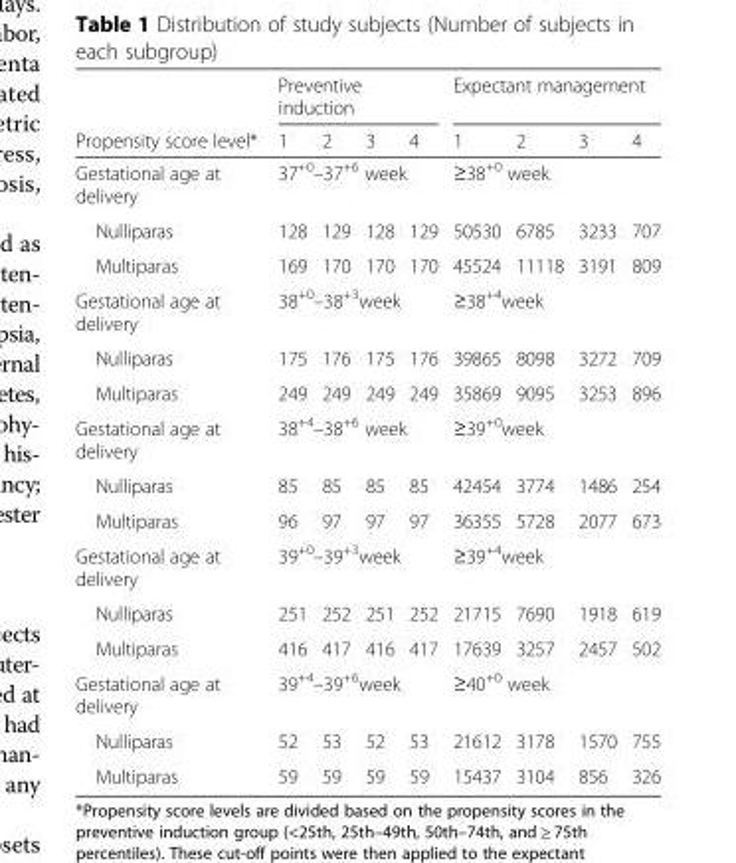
<table><thead><tr><td rowspan="2">Propensity score level*</td><td colspan="4">Preventive induction</td><td colspan="4">Expectant management</td></tr><tr><td>1</td><td>2</td><td>3</td><td>4</td><td>1</td><td>2</td><td>3</td><td>4</td></tr></thead><tbody><tr><td>Gestational age at delivery</td><td colspan="4">37<sup>+0</sup>–37<sup>+6</sup> week</td><td colspan="4">≥38<sup>+0</sup> week</td></tr><tr><td>Nulliparas</td><td>128</td><td>129</td><td>128</td><td>129</td><td>50530</td><td>6785</td><td>3233</td><td>707</td></tr><tr><td>Multiparas</td><td>169</td><td>170</td><td>170</td><td>170</td><td>45524</td><td>11118</td><td>3191</td><td>809</td></tr><tr><td>Gestational age at delivery</td><td colspan="4">38<sup>+0</sup>–38<sup>+3</sup>week</td><td colspan="4">≥38<sup>+4</sup>week</td></tr><tr><td>Nulliparas</td><td>175</td><td>176</td><td>175</td><td>176</td><td>39865</td><td>8098</td><td>3272</td><td>709</td></tr><tr><td>Multiparas</td><td>249</td><td>249</td><td>249</td><td>249</td><td>35869</td><td>9095</td><td>3253</td><td>896</td></tr><tr><td>Gestational age at delivery</td><td colspan="4">38<sup>+4</sup>–38<sup>+6</sup> week</td><td colspan="4">≥39<sup>+0</sup>week</td></tr><tr><td>Nulliparas</td><td>85</td><td>85</td><td>85</td><td>85</td><td>42454</td><td>3774</td><td>1486</td><td>254</td></tr><tr><td>Multiparas</td><td>96</td><td>97</td><td>97</td><td>97</td><td>36355</td><td>5728</td><td>2077</td><td>673</td></tr><tr><td>Gestational age at delivery</td><td colspan="4">39<sup>+0</sup>–39<sup>+3</sup>week</td><td colspan="4">≥39<sup>+4</sup>week</td></tr><tr><td>Nulliparas</td><td>251</td><td>252</td><td>251</td><td>252</td><td>21715</td><td>7690</td><td>1918</td><td>619</td></tr><tr><td>Multiparas</td><td>416</td><td>417</td><td>416</td><td>417</td><td>17639</td><td>3257</td><td>2457</td><td>502</td></tr><tr><td>Gestational age at delivery</td><td colspan="4">39<sup>+4</sup>–39<sup>+6</sup>week</td><td colspan="4">≥40<sup>+0</sup> week</td></tr><tr><td>Nulliparas</td><td>52</td><td>53</td><td>52</td><td>53</td><td>21612</td><td>3178</td><td>1570</td><td>755</td></tr><tr><td>Multiparas</td><td>59</td><td>59</td><td>59</td><td>59</td><td>15437</td><td>3104</td><td>856</td><td>326</td></tr></tbody></table>